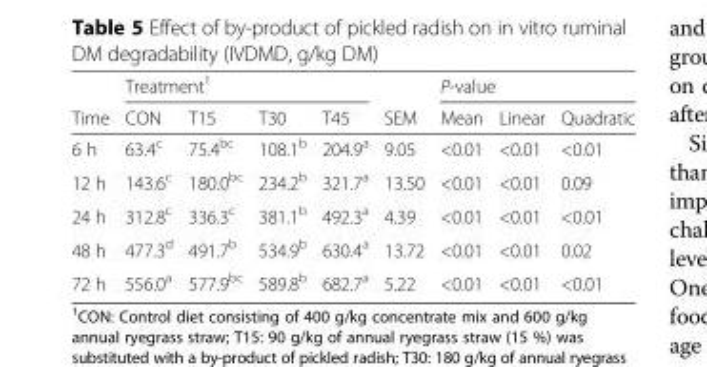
<table><thead><tr><td rowspan="2">Time</td><td colspan="4">Treatment<sup>1</sup></td><td rowspan="2">SEM</td><td colspan="3">P-value</td></tr><tr><td>CON</td><td>T15</td><td>T30</td><td>T45</td><td>Mean</td><td>Linear</td><td>Quadratic</td></tr></thead><tbody><tr><td>6 h</td><td>63.4<sup>c</sup></td><td>75.4<sup>bc</sup></td><td>108.1<sup>b</sup></td><td>204.9<sup>a</sup></td><td>9.05</td><td>&lt;0.01</td><td>&lt;0.01</td><td>&lt;0.01</td></tr><tr><td>12 h</td><td>143.6<sup>c</sup></td><td>180.0<sup>bc</sup></td><td>234.2<sup>b</sup></td><td>321.7<sup>a</sup></td><td>13.50</td><td>&lt;0.01</td><td>&lt;0.01</td><td>0.09</td></tr><tr><td>24 h</td><td>312.8<sup>c</sup></td><td>336.3<sup>c</sup></td><td>381.1<sup>b</sup></td><td>492.3<sup>a</sup></td><td>4.39</td><td>&lt;0.01</td><td>&lt;0.01</td><td>&lt;0.01</td></tr><tr><td>48 h</td><td>477.3<sup>d</sup></td><td>491.7<sup>b</sup></td><td>534.9<sup>b</sup></td><td>630.4<sup>a</sup></td><td>13.72</td><td>&lt;0.01</td><td>&lt;0.01</td><td>0.02</td></tr><tr><td>72 h</td><td>556.0<sup>a</sup></td><td>577.9<sup>bc</sup></td><td>589.8<sup>b</sup></td><td>682.7<sup>a</sup></td><td>5.22</td><td>&lt;0.01</td><td>&lt;0.01</td><td>&lt;0.01</td></tr></tbody></table>